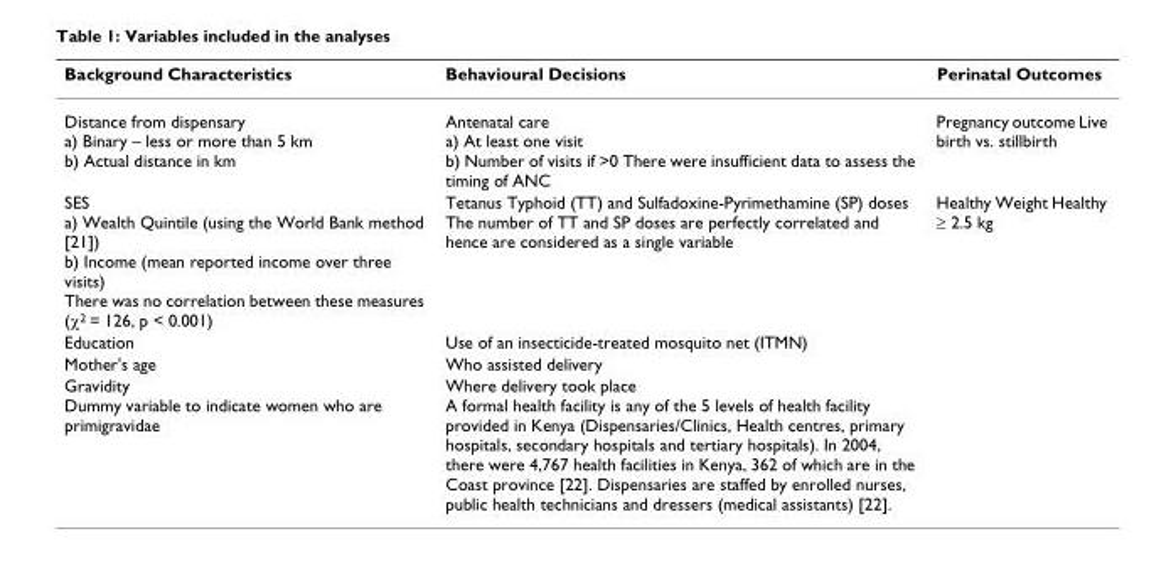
<table><thead><tr><td>Background Characteristics</td><td>Behavioural Decisions</td><td>Perinatal Outcomes</td></tr></thead><tbody><tr><td>Distance from dispensary a) Binary – less or more than 5 km b) Actual distance in km</td><td>Antenatal care a) At least one visit b) Number of visits if &gt;0 There were insufficient data to assess the timing of ANC</td><td>Pregnancy outcome Live birth vs. stillbirth</td></tr><tr><td>SES a) Wealth Quintile (using the World Bank method [21]) b) Income (mean reported income over three visits) There was no correlation between these measures (χ<sup>2</sup> = 126, p &lt; 0.001)</td><td>Tetanus Typhoid (TT) and Sulfadoxine-Pyrimethamine (SP) doses The number of TT and SP doses are perfectly correlated and hence are considered as a single variable</td><td>Healthy Weight Healthy ≥ 2.5 kg</td></tr><tr><td>Education</td><td>Use of an insecticide-treated mosquito net (ITMN)</td><td></td></tr><tr><td>Mother&#x27;s age</td><td>Who assisted delivery</td><td></td></tr><tr><td>Gravidity Dummy variable to indicate women who are primigravidae</td><td>Where delivery took place A formal health facility is any of the 5 levels of health facility provided in Kenya (Dispensaries/Clinics, Health centres, primary hospitals, secondary hospitals and tertiary hospitals). In 2004, there were 4,767 health facilities in Kenya, 362 of which are in the Coast province [22]. Dispensaries are staffed by enrolled nurses, public health technicians and dressers (medical assistants) [22].</td><td></td></tr></tbody></table>